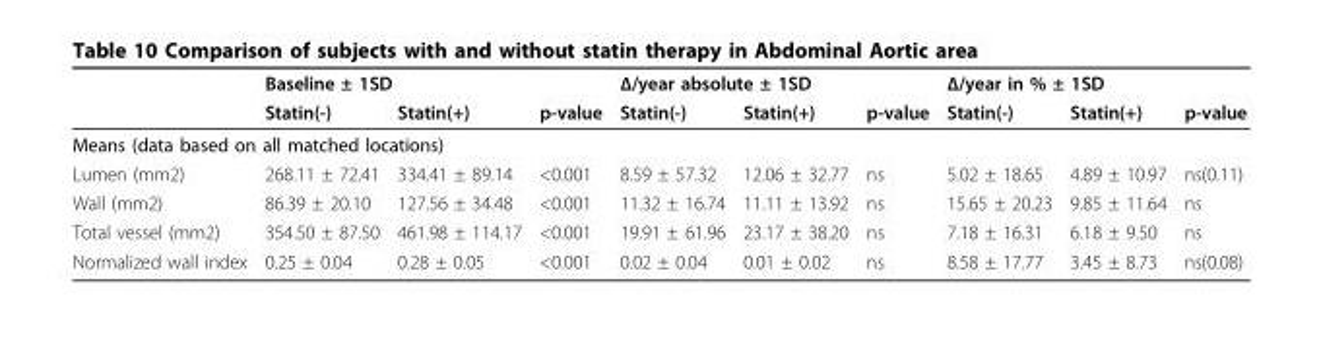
<table><thead><tr><td rowspan="2"></td><td colspan="2">Baseline ± 1SD</td><td rowspan="2">p-value</td><td colspan="2">Δ/year absolute ± 1SD</td><td rowspan="2">p-value</td><td colspan="2">Δ/year in % ± 1SD</td><td rowspan="2">p-value</td></tr><tr><td>Statin(-)</td><td>Statin(+)</td><td>Statin(-)</td><td>Statin(+)</td><td>Statin(-)</td><td>Statin(+)</td></tr></thead><tbody><tr><td colspan="10">Means (data based on all matched locations)</td></tr><tr><td>Lumen (mm2)</td><td>268.11 ± 72.41</td><td>334.41 ± 89.14</td><td>&lt;0.001</td><td>8.59 ± 57.32</td><td>12.06 ± 32.77</td><td>ns</td><td>5.02 ± 18.65</td><td>4.89 ± 10.97</td><td>ns(0.11)</td></tr><tr><td>Wall (mm2)</td><td>86.39 ± 20.10</td><td>127.56 ± 34.48</td><td>&lt;0.001</td><td>11.32 ± 16.74</td><td>11.11 ± 13.92</td><td>ns</td><td>15.65 ± 20.23</td><td>9.85 ± 11.64</td><td>ns</td></tr><tr><td>Total vessel (mm2)</td><td>354.50 ± 87.50</td><td>461.98 ± 114.17</td><td>&lt;0.001</td><td>19.91 ± 61.96</td><td>23.17 ± 38.20</td><td>ns</td><td>7.18 ± 16.31</td><td>6.18 ± 9.50</td><td>ns</td></tr><tr><td>Normalized wall index</td><td>0.25 ± 0.04</td><td>0.28 ± 0.05</td><td>&lt;0.001</td><td>0.02 ± 0.04</td><td>0.01 ± 0.02</td><td>ns</td><td>8.58 ± 17.77</td><td>3.45 ± 8.73</td><td>ns(0.08)</td></tr></tbody></table>